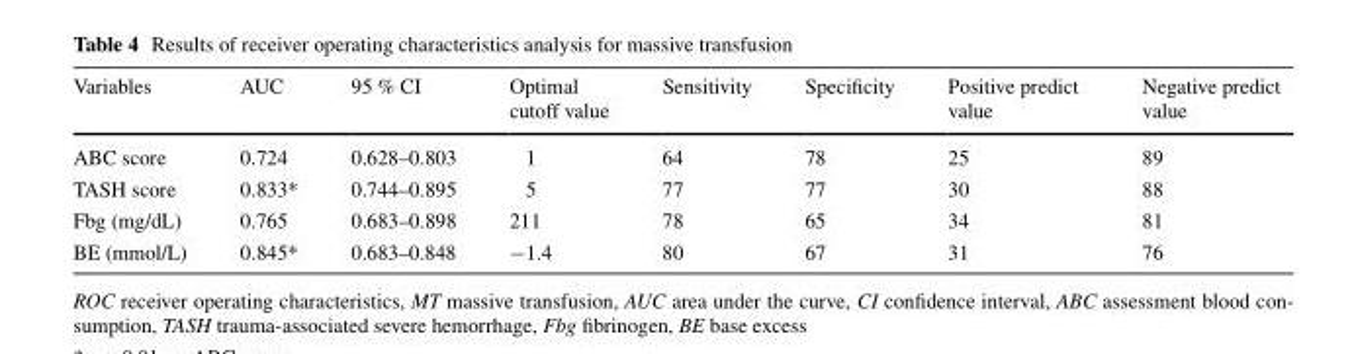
<table><thead><tr><td>Variables</td><td>AUC</td><td>95 % CI</td><td>Optimal cutoff value</td><td>Sensitivity</td><td>Specificity</td><td>Positive predict value</td><td>Negative predict value</td></tr></thead><tbody><tr><td>ABC score</td><td>0.724</td><td>0.628–0.803</td><td>1</td><td>64</td><td>78</td><td>25</td><td>89</td></tr><tr><td>TASH score</td><td>0.833*</td><td>0.744–0.895</td><td>5</td><td>77</td><td>77</td><td>30</td><td>88</td></tr><tr><td>Fbg (mg/dL)</td><td>0.765</td><td>0.683–0.898</td><td>211</td><td>78</td><td>65</td><td>34</td><td>81</td></tr><tr><td>BE (mmol/L)</td><td>0.845*</td><td>0.683–0.848</td><td>−1.4</td><td>80</td><td>67</td><td>31</td><td>76</td></tr></tbody></table>